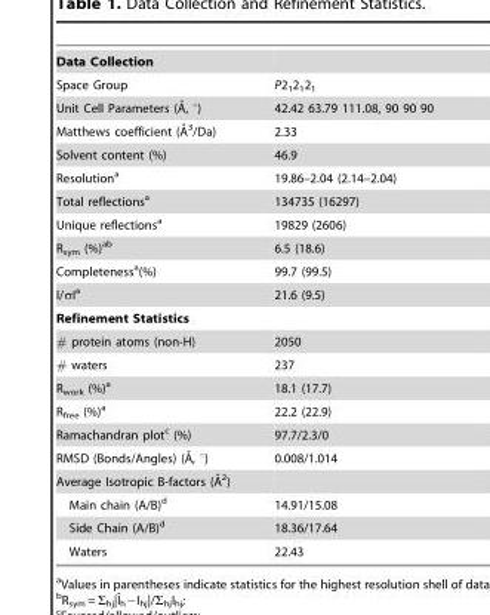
<table><tbody><tr><td colspan="2">Data Collection</td></tr><tr><td>Space Group</td><td>P2<sub>1</sub>2<sub>1</sub>2<sub>1</sub></td></tr><tr><td>Unit Cell Parameters (A˚, u)</td><td>42.42 63.79 111.08, 90 90 90</td></tr><tr><td>Matthews coefficient (A˚ 3/Da)</td><td>2.33</td></tr><tr><td>Solvent content (%)</td><td>46.9</td></tr><tr><td>Resolution<sup>a</sup></td><td>19.86–2.04 (2.14–2.04)</td></tr><tr><td>Total reflections<sup>a</sup></td><td>134735 (16297)</td></tr><tr><td>Unique reflections<sup>a</sup></td><td>19829 (2606)</td></tr><tr><td>R<sub>sym</sub> (%)<sup>ab</sup></td><td>6.5 (18.6)</td></tr><tr><td>Completeness<sup>a</sup>(%)</td><td>99.7 (99.5)</td></tr><tr><td>I/σI<sup>a</sup></td><td>21.6 (9.5)</td></tr><tr><td colspan="2">Refinement Statistics</td></tr><tr><td># protein atoms (non-H)</td><td>2050</td></tr><tr><td># waters</td><td>237</td></tr><tr><td>R<sub>work</sub> (%)<sup>a</sup></td><td>18.1 (17.7)</td></tr><tr><td>R<sub>free</sub> (%)<sup>a</sup></td><td>22.2 (22.9)</td></tr><tr><td>Ramachandran plot<sup>c</sup> (%)</td><td>97.7/2.3/0</td></tr><tr><td>RMSD (Bonds/Angles) (A˚, u)</td><td>0.008/1.014</td></tr><tr><td colspan="2">Average Isotropic B-factors (A˚2)</td></tr><tr><td>Main chain (A/B)<sup>d</sup></td><td>14.91/15.08</td></tr><tr><td>Side Chain (A/B)<sup>d</sup></td><td>18.36/17.64</td></tr><tr><td>Waters</td><td>22.43</td></tr></tbody></table>